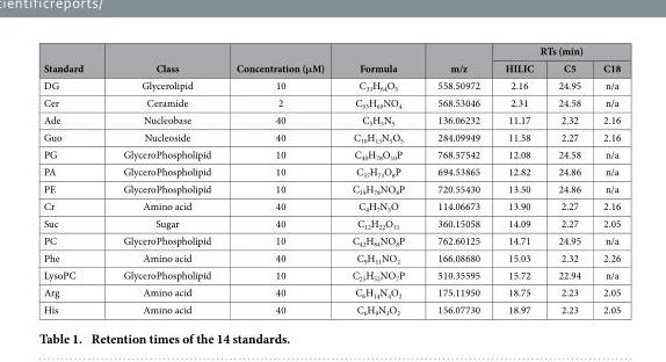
<table><thead><tr><td rowspan="2">Standard</td><td rowspan="2">Class</td><td rowspan="2">Concentration (μM)</td><td rowspan="2">Formula</td><td rowspan="2">m/z</td><td colspan="3">RTs (min)</td></tr><tr><td>HILIC</td><td>C5</td><td>C18</td></tr></thead><tbody><tr><td>DG</td><td>Glycerolipid</td><td>10</td><td>C<sub>33</sub>H<sub>64</sub>O<sub>5</sub></td><td>558.50972</td><td>2.16</td><td>24.95</td><td>n/a</td></tr><tr><td>Cer</td><td>Ceramide</td><td>2</td><td>C<sub>35</sub>H<sub>69</sub>NO<sub>4</sub></td><td>568.53046</td><td>2.31</td><td>24.58</td><td>n/a</td></tr><tr><td>Ade</td><td>Nucleobase</td><td>40</td><td>C<sub>5</sub>H<sub>5</sub>N<sub>5</sub></td><td>136.06232</td><td>11.17</td><td>2.32</td><td>2.16</td></tr><tr><td>Guo</td><td>Nucleoside</td><td>40</td><td>C<sub>10</sub>H<sub>13</sub>N<sub>5</sub>O<sub>5</sub></td><td>284.09949</td><td>11.58</td><td>2.27</td><td>2.16</td></tr><tr><td>PG</td><td>GlyceroPhospholipid</td><td>10</td><td>C<sub>40</sub>H<sub>78</sub>O<sub>10</sub>P</td><td>768.57542</td><td>12.08</td><td>24.58</td><td>n/a</td></tr><tr><td>PA</td><td>GlyceroPhospholipid</td><td>10</td><td>C<sub>37</sub>H<sub>73</sub>O<sub>8</sub>P</td><td>694.53865</td><td>12.82</td><td>24.86</td><td>n/a</td></tr><tr><td>PE</td><td>GlyceroPhospholipid</td><td>10</td><td>C<sub>39</sub>H<sub>78</sub>NO<sub>8</sub>P</td><td>720.55430</td><td>13.50</td><td>24.86</td><td>n/a</td></tr><tr><td>Cr</td><td>Amino acid</td><td>40</td><td>C<sub>4</sub>H<sub>7</sub>N<sub>3</sub>O</td><td>114.06673</td><td>13.90</td><td>2.27</td><td>2.16</td></tr><tr><td>Suc</td><td>Sugar</td><td>40</td><td>C<sub>12</sub>H<sub>22</sub>O<sub>11</sub></td><td>360.15058</td><td>14.09</td><td>2.27</td><td>2.05</td></tr><tr><td>PC</td><td>GlyceroPhospholipid</td><td>10</td><td>C<sub>42</sub>H<sub>84</sub>NO<sub>8</sub>P</td><td>762.60125</td><td>14.71</td><td>24.95</td><td>n/a</td></tr><tr><td>Phe</td><td>Amino acid</td><td>40</td><td>C<sub>9</sub>H<sub>11</sub>NO<sub>2</sub></td><td>166.08680</td><td>15.03</td><td>2.32</td><td>2.26</td></tr><tr><td>LysoPC</td><td>GlyceroPhospholipid</td><td>10</td><td>C<sub>25</sub>H<sub>52</sub>NO<sub>7</sub>P</td><td>510.35595</td><td>15.72</td><td>22.94</td><td>n/a</td></tr><tr><td>Arg</td><td>Amino acid</td><td>40</td><td>C<sub>6</sub>H<sub>14</sub>N<sub>4</sub>O<sub>2</sub></td><td>175.11950</td><td>18.75</td><td>2.23</td><td>2.05</td></tr><tr><td>His</td><td>Amino acid</td><td>40</td><td>C<sub>6</sub>H<sub>9</sub>N<sub>3</sub>O<sub>2</sub></td><td>156.07730</td><td>18.97</td><td>2.23</td><td>2.05</td></tr></tbody></table>